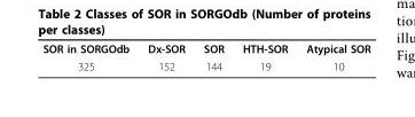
<table><tbody><tr><td>SOR in SORGOdb</td><td>Dx-SOR</td><td>SOR</td><td>HTH-SOR</td><td>Atypical SOR</td></tr><tr><td>325</td><td>152</td><td>144</td><td>19</td><td>10</td></tr></tbody></table>